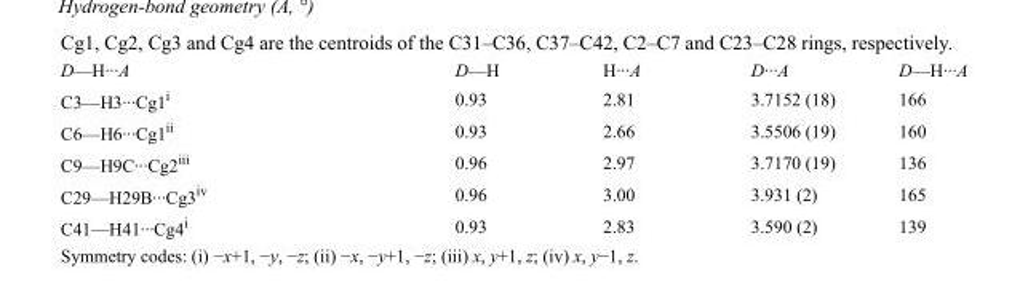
<table><tbody><tr><td>D—H···A</td><td>D—H</td><td>H···A</td><td>D···A</td><td>D—H···A</td></tr><tr><td>C3—H3···Cg1<sup>i</sup></td><td>0.93</td><td>2.81</td><td>3.7152 (18)</td><td>166</td></tr><tr><td>C6—H6···Cg1<sup>ii</sup></td><td>0.93</td><td>2.66</td><td>3.5506 (19)</td><td>160</td></tr><tr><td>C9—H9C···Cg2<sup>iii</sup></td><td>0.96</td><td>2.97</td><td>3.7170 (19)</td><td>136</td></tr><tr><td>C29—H29B···Cg3<sup>iv</sup></td><td>0.96</td><td>3.00</td><td>3.931 (2)</td><td>165</td></tr><tr><td>C41—H41···Cg4<sup>i</sup></td><td>0.93</td><td>2.83</td><td>3.590 (2)</td><td>139</td></tr></tbody></table>